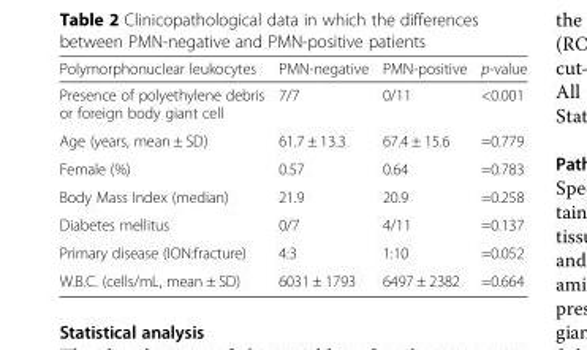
<table><thead><tr><td>Polymorphonuclear leukocytes</td><td>PMN-negative</td><td>PMN-positive</td><td>p-value</td></tr></thead><tbody><tr><td>Presence of polyethylene debris or foreign body giant cell</td><td>7/7</td><td>0/11</td><td>&lt;0.001</td></tr><tr><td>Age (years, mean ± SD)</td><td>61.7 ± 13.3</td><td>67.4 ± 15.6</td><td>=0.779</td></tr><tr><td>Female (%)</td><td>0.57</td><td>0.64</td><td>=0.783</td></tr><tr><td>Body Mass Index (median)</td><td>21.9</td><td>20.9</td><td>=0.258</td></tr><tr><td>Diabetes mellitus</td><td>0/7</td><td>4/11</td><td>=0.137</td></tr><tr><td>Primary disease (ION:fracture)</td><td>4:3</td><td>1:10</td><td>=0.052</td></tr><tr><td>W.B.C. (cells/mL, mean ± SD)</td><td>6031 ± 1793</td><td>6497 ± 2382</td><td>=0.664</td></tr></tbody></table>